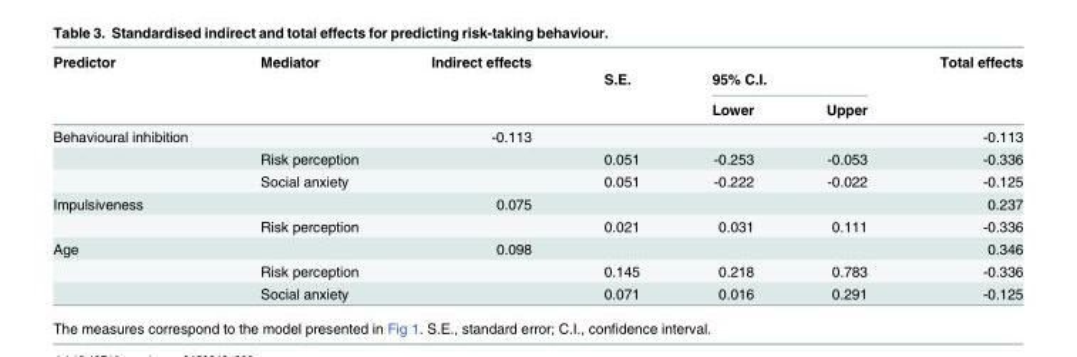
<table><thead><tr><td rowspan="3">Predictor</td><td rowspan="3">Mediator</td><td rowspan="3">Indirect effects</td><td rowspan="3">S.E.</td><td></td><td></td><td rowspan="3">Total effects</td></tr><tr><td colspan="2">95% C.I.</td></tr><tr><td>Lower</td><td>Upper</td></tr></thead><tbody><tr><td rowspan="3">Behavioural inhibition</td><td></td><td>-0.113</td><td></td><td></td><td></td><td>-0.113</td></tr><tr><td>Risk perception</td><td></td><td>0.051</td><td>-0.253</td><td>-0.053</td><td>-0.336</td></tr><tr><td>Social anxiety</td><td></td><td>0.051</td><td>-0.222</td><td>-0.022</td><td>-0.125</td></tr><tr><td rowspan="2">Impulsiveness</td><td></td><td>0.075</td><td></td><td></td><td></td><td>0.237</td></tr><tr><td>Risk perception</td><td></td><td>0.021</td><td>0.031</td><td>0.111</td><td>-0.336</td></tr><tr><td rowspan="3">Age</td><td></td><td>0.098</td><td></td><td></td><td></td><td>0.346</td></tr><tr><td>Risk perception</td><td></td><td>0.145</td><td>0.218</td><td>0.783</td><td>-0.336</td></tr><tr><td>Social anxiety</td><td></td><td>0.071</td><td>0.016</td><td>0.291</td><td>-0.125</td></tr></tbody></table>